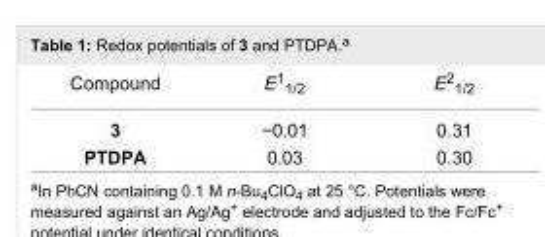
<table><tbody><tr><td>Compound</td><td>E<sup>1</sup><sub>1/2</sub></td><td>E<sup>2</sup><sub>1/2</sub></td></tr><tr><td>3</td><td>−0.01</td><td>0.31</td></tr><tr><td>PTDPA</td><td>0.03</td><td>0.30</td></tr></tbody></table>